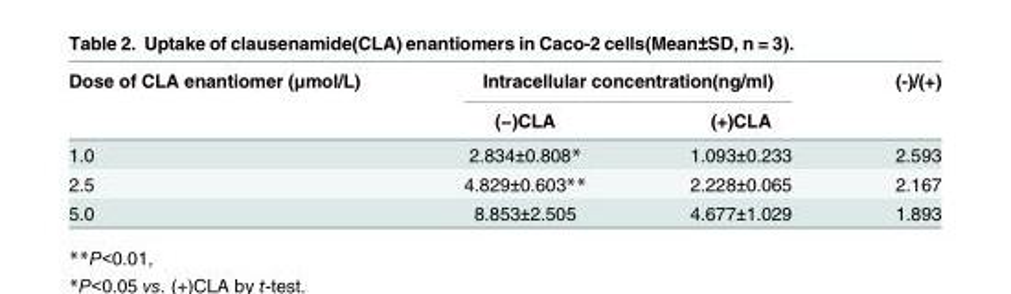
<table><thead><tr><td rowspan="2">Dose of CLA enantiomer (μmol/L)</td><td colspan="2">Intracellular concentration(ng/ml)</td><td rowspan="2">(-)/(+)</td></tr><tr><td>(−)CLA</td><td>(+)CLA</td></tr></thead><tbody><tr><td>1.0</td><td>2.834±0.808*</td><td>1.093±0.233</td><td>2.593</td></tr><tr><td>2.5</td><td>4.829±0.603**</td><td>2.228±0.065</td><td>2.167</td></tr><tr><td>5.0</td><td>8.853±2.505</td><td>4.677±1.029</td><td>1.893</td></tr></tbody></table>